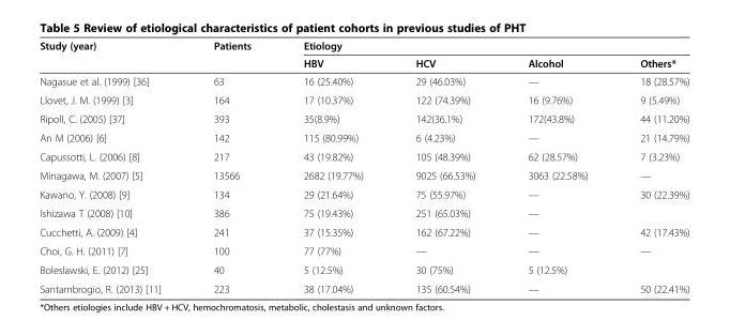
<table><thead><tr><td rowspan="2">Study (year)</td><td rowspan="2">Patients</td><td colspan="4">Etiology</td></tr><tr><td>HBV</td><td>HCV</td><td>Alcohol</td><td>Others*</td></tr></thead><tbody><tr><td>Nagasue et al. (1999) [36]</td><td>63</td><td>16 (25.40%)</td><td>29 (46.03%)</td><td>—</td><td>18 (28.57%)</td></tr><tr><td>Llovet, J. M. (1999) [3]</td><td>164</td><td>17 (10.37%)</td><td>122 (74.39%)</td><td>16 (9.76%)</td><td>9 (5.49%)</td></tr><tr><td>Ripoll, C. (2005) [37]</td><td>393</td><td>35(8.9%)</td><td>142(36.1%)</td><td>172(43.8%)</td><td>44 (11.20%)</td></tr><tr><td>An M (2006) [6]</td><td>142</td><td>115 (80.99%)</td><td>6 (4.23%)</td><td>—</td><td>21 (14.79%)</td></tr><tr><td>Capussotti, L. (2006) [8]</td><td>217</td><td>43 (19.82%)</td><td>105 (48.39%)</td><td>62 (28.57%)</td><td>7 (3.23%)</td></tr><tr><td>Minagawa, M. (2007) [5]</td><td>13566</td><td>2682 (19.77%)</td><td>9025 (66.53%)</td><td>3063 (22.58%)</td><td>—</td></tr><tr><td>Kawano, Y. (2008) [9]</td><td>134</td><td>29 (21.64%)</td><td>75 (55.97%)</td><td>—</td><td>30 (22.39%)</td></tr><tr><td>Ishizawa T (2008) [10]</td><td>386</td><td>75 (19.43%)</td><td>251 (65.03%)</td><td>—</td><td></td></tr><tr><td>Cucchetti, A. (2009) [4]</td><td>241</td><td>37 (15.35%)</td><td>162 (67.22%)</td><td>—</td><td>42 (17.43%)</td></tr><tr><td>Choi, G. H. (2011) [7]</td><td>100</td><td>77 (77%)</td><td>—</td><td>—</td><td>—</td></tr><tr><td>Boleslawski, E. (2012) [25]</td><td>40</td><td>5 (12.5%)</td><td>30 (75%)</td><td>5 (12.5%)</td><td></td></tr><tr><td>Santambrogio, R. (2013) [11]</td><td>223</td><td>38 (17.04%)</td><td>135 (60.54%)</td><td>—</td><td>50 (22.41%)</td></tr></tbody></table>